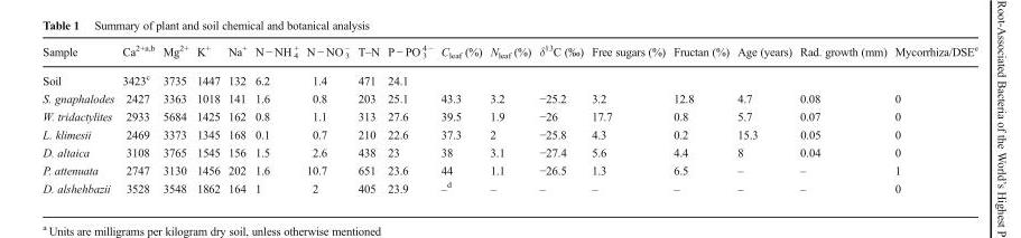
<table><thead><tr><td>Sample</td><td>Ca<sup>2+a,b</sup></td><td>Mg<sup>2+</sup></td><td>K<sup>+</sup></td><td>Na<sup>+</sup></td><td>N − NH <sub>4</sub> <sup>+</sup></td><td>N − NO <sub>3</sub> <sup>−</sup></td><td>T–N</td><td>P − PO <sub>3</sub> <sup>4 −</sup></td><td>C<sub>leaf</sub> (%)</td><td>N<sub>leaf</sub> (%)</td><td>δ<sup>13</sup>C (‰)</td><td>Free sugars (%)</td><td>Fructan (%)</td><td>Age (years)</td><td>Rad. growth (mm)</td><td>Mycorrhiza/DSE<sup>e</sup></td></tr></thead><tbody><tr><td>Soil</td><td>3423<sup>c</sup></td><td>3735</td><td>1447</td><td>132</td><td>6.2</td><td>1.4</td><td>471</td><td>24.1</td><td></td><td></td><td></td><td></td><td></td><td></td><td></td><td></td></tr><tr><td>S. gnaphalodes</td><td>2427</td><td>3363</td><td>1018</td><td>141</td><td>1.6</td><td>0.8</td><td>203</td><td>25.1</td><td>43.3</td><td>3.2</td><td>−25.2</td><td>3.2</td><td>12.8</td><td>4.7</td><td>0.08</td><td>0</td></tr><tr><td>W. tridactylites</td><td>2933</td><td>5684</td><td>1425</td><td>162</td><td>0.8</td><td>1.1</td><td>313</td><td>27.6</td><td>39.5</td><td>1.9</td><td>−26</td><td>17.7</td><td>0.8</td><td>5.7</td><td>0.07</td><td>0</td></tr><tr><td>L. klimesii</td><td>2469</td><td>3373</td><td>1345</td><td>168</td><td>0.1</td><td>0.7</td><td>210</td><td>22.6</td><td>37.3</td><td>2</td><td>−25.8</td><td>4.3</td><td>0.2</td><td>15.3</td><td>0.05</td><td>0</td></tr><tr><td>D. altaica</td><td>3108</td><td>3765</td><td>1545</td><td>156</td><td>1.5</td><td>2.6</td><td>438</td><td>23</td><td>38</td><td>3.1</td><td>−27.4</td><td>5.6</td><td>4.4</td><td>8</td><td>0.04</td><td>0</td></tr><tr><td>P. attenuata</td><td>2747</td><td>3130</td><td>1456</td><td>202</td><td>1.6</td><td>10.7</td><td>651</td><td>23.6</td><td>44</td><td>1.1</td><td>−26.5</td><td>1.3</td><td>6.5</td><td>–</td><td>–</td><td>1</td></tr><tr><td>D. alshehbazii</td><td>3528</td><td>3548</td><td>1862</td><td>164</td><td>1</td><td>2</td><td>405</td><td>23.9</td><td>–<sup>d</sup></td><td>–</td><td>–</td><td>–</td><td>–</td><td>–</td><td>–</td><td>0</td></tr></tbody></table>